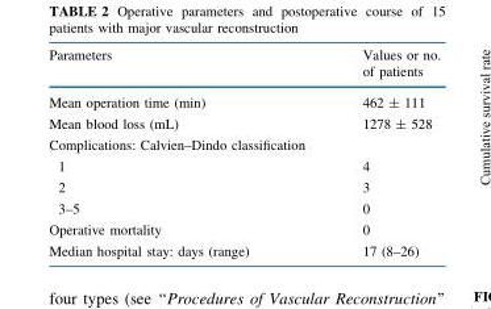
<table><thead><tr><td>Parameters</td><td>Values or no. of patients</td></tr></thead><tbody><tr><td>Mean operation time (min)</td><td>462 ± 111</td></tr><tr><td>Mean blood loss (mL)</td><td>1278 ± 528</td></tr><tr><td colspan="2">Complications: Calvien–Dindo classification</td></tr><tr><td>1</td><td>4</td></tr><tr><td>2</td><td>3</td></tr><tr><td>3–5</td><td>0</td></tr><tr><td>Operative mortality</td><td>0</td></tr><tr><td>Median hospital stay: days (range)</td><td>17 (8–26)</td></tr></tbody></table>